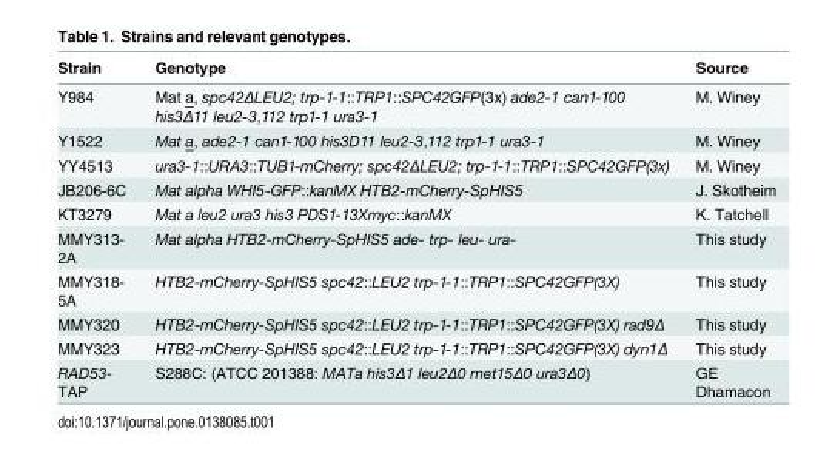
<table><thead><tr><td>Strain</td><td>Genotype</td><td>Source</td></tr></thead><tbody><tr><td>Y984</td><td>Mat a, spc42ΔLEU2; trp-1-1::TRP1::SPC42GFP(3x) ade2-1 can1-100 his3Δ11 leu2-3,112 trp1-1 ura3-1</td><td>M. Winey</td></tr><tr><td>Y1522</td><td>Mat a, ade2-1 can1-100 his3D11 leu2-3,112 trp1-1 ura3-1</td><td>M. Winey</td></tr><tr><td>YY4513</td><td>ura3-1::URA3::TUB1-mCherry; spc42ΔLEU2; trp-1-1::TRP1::SPC42GFP(3x)</td><td>M. Winey</td></tr><tr><td>JB206-6C</td><td>Mat alpha WHI5-GFP::kanMX HTB2-mCherry-SpHIS5</td><td>J. Skotheim</td></tr><tr><td>KT3279</td><td>Mat a leu2 ura3 his3 PDS1-13Xmyc::kanMX</td><td>K. Tatchell</td></tr><tr><td>MMY313- 2A</td><td>Mat alpha HTB2-mCherry-SpHIS5 ade- trp- leu- ura-</td><td>This study</td></tr><tr><td>MMY318- 5A</td><td>HTB2-mCherry-SpHIS5 spc42::LEU2 trp-1-1::TRP1::SPC42GFP(3X)</td><td>This study</td></tr><tr><td>MMY320</td><td>HTB2-mCherry-SpHIS5 spc42::LEU2 trp-1-1::TRP1::SPC42GFP(3X) rad9Δ</td><td>This study</td></tr><tr><td>MMY323</td><td>HTB2-mCherry-SpHIS5 spc42::LEU2 trp-1-1::TRP1::SPC42GFP(3X) dyn1Δ</td><td>This study</td></tr><tr><td>RAD53- TAP</td><td>S288C: (ATCC 201388: MATa his3Δ1 leu2Δ0 met15Δ0 ura3Δ0)</td><td>GE Dhamacon</td></tr></tbody></table>